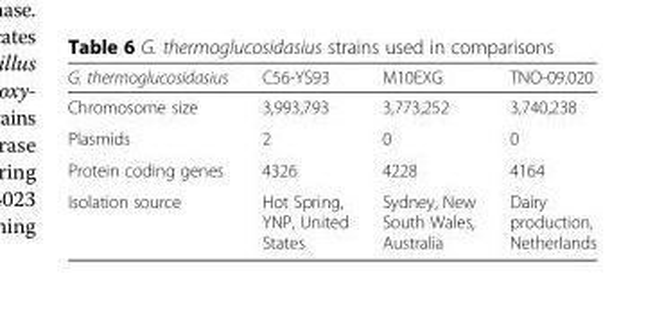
<table><thead><tr><td>G. thermoglucosidasius</td><td>C56-YS93</td><td>M10EXG</td><td>TNO-09.020</td></tr></thead><tbody><tr><td>Chromosome size</td><td>3,993,793</td><td>3,773,252</td><td>3,740,238</td></tr><tr><td>Plasmids</td><td>2</td><td>0</td><td>0</td></tr><tr><td>Protein coding genes</td><td>4326</td><td>4228</td><td>4164</td></tr><tr><td>Isolation source</td><td>Hot Spring, YNP, United States</td><td>Sydney, New South Wales, Australia</td><td>Dairy production, Netherlands</td></tr></tbody></table>